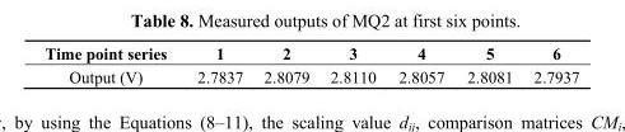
<table><thead><tr><td>Time point series</td><td>1</td><td>2</td><td>3</td><td>4</td><td>5</td><td>6</td></tr></thead><tbody><tr><td>Output (V)</td><td>2.7837</td><td>2.8079</td><td>2.8110</td><td>2.8057</td><td>2.8081</td><td>2.7937</td></tr></tbody></table>